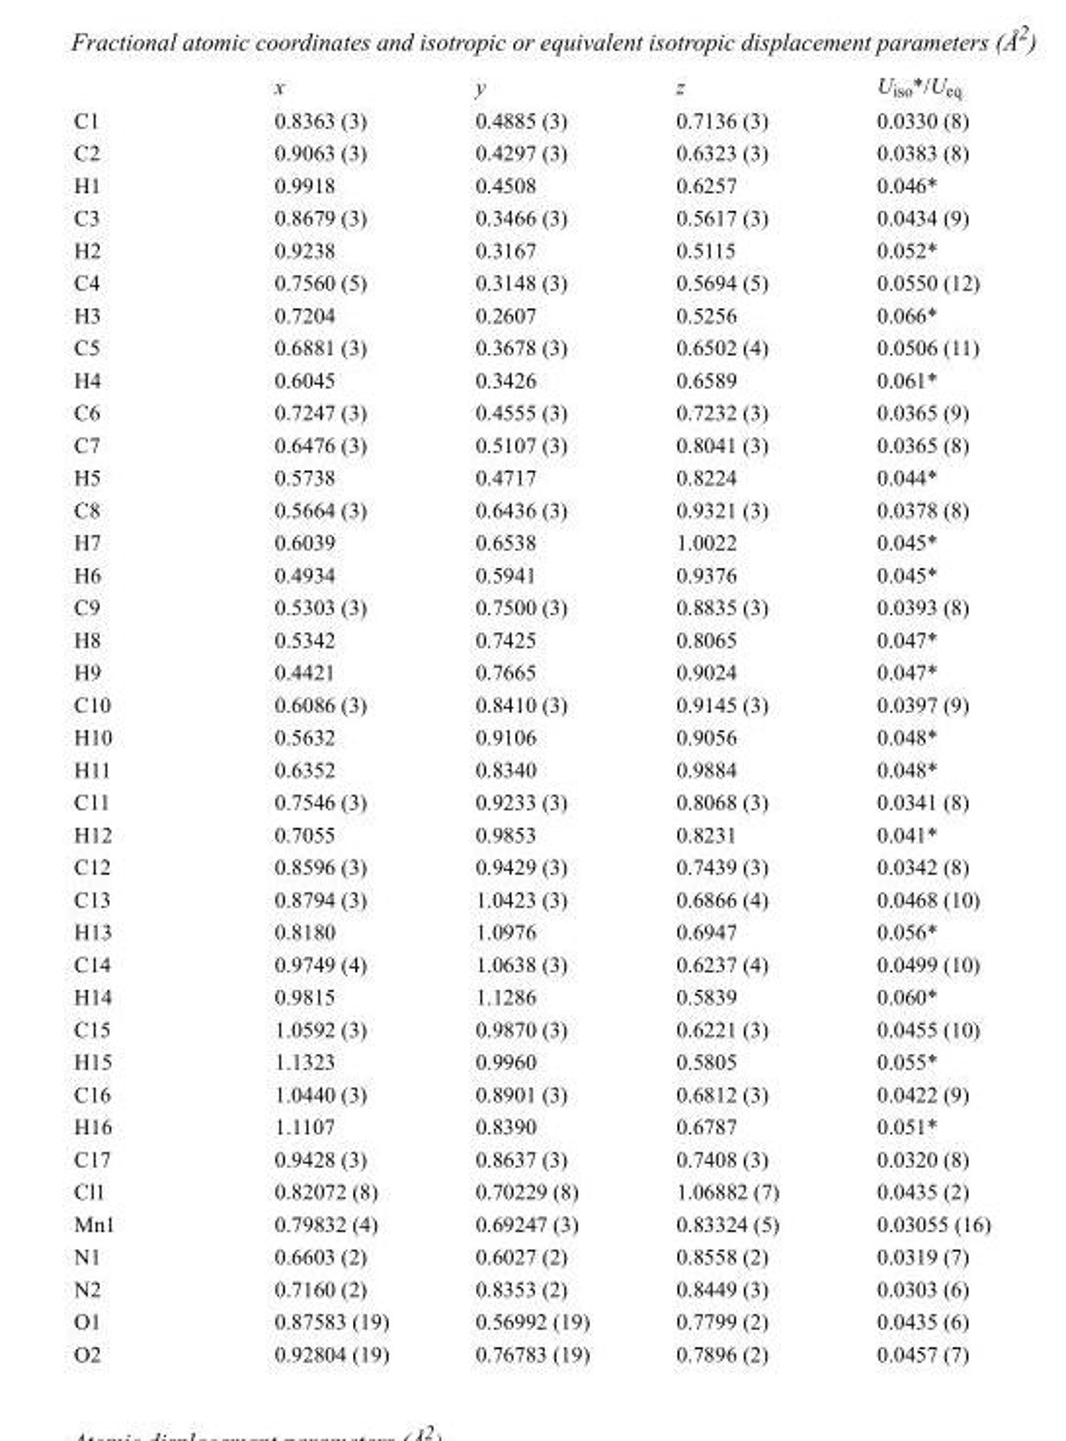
<table><thead><tr><td></td><td>x</td><td>y</td><td>z</td><td>U<sub>iso</sub>*/U<sub>eq</sub></td></tr></thead><tbody><tr><td>C1</td><td>0.8363 (3)</td><td>0.4885 (3)</td><td>0.7136 (3)</td><td>0.0330 (8)</td></tr><tr><td>C2</td><td>0.9063 (3)</td><td>0.4297 (3)</td><td>0.6323 (3)</td><td>0.0383 (8)</td></tr><tr><td>H1</td><td>0.9918</td><td>0.4508</td><td>0.6257</td><td>0.046*</td></tr><tr><td>C3</td><td>0.8679 (3)</td><td>0.3466 (3)</td><td>0.5617 (3)</td><td>0.0434 (9)</td></tr><tr><td>H2</td><td>0.9238</td><td>0.3167</td><td>0.5115</td><td>0.052*</td></tr><tr><td>C4</td><td>0.7560 (5)</td><td>0.3148 (3)</td><td>0.5694 (5)</td><td>0.0550 (12)</td></tr><tr><td>H3</td><td>0.7204</td><td>0.2607</td><td>0.5256</td><td>0.066*</td></tr><tr><td>C5</td><td>0.6881 (3)</td><td>0.3678 (3)</td><td>0.6502 (4)</td><td>0.0506 (11)</td></tr><tr><td>H4</td><td>0.6045</td><td>0.3426</td><td>0.6589</td><td>0.061*</td></tr><tr><td>C6</td><td>0.7247 (3)</td><td>0.4555 (3)</td><td>0.7232 (3)</td><td>0.0365 (9)</td></tr><tr><td>C7</td><td>0.6476 (3)</td><td>0.5107 (3)</td><td>0.8041 (3)</td><td>0.0365 (8)</td></tr><tr><td>H5</td><td>0.5738</td><td>0.4717</td><td>0.8224</td><td>0.044*</td></tr><tr><td>C8</td><td>0.5664 (3)</td><td>0.6436 (3)</td><td>0.9321 (3)</td><td>0.0378 (8)</td></tr><tr><td>H7</td><td>0.6039</td><td>0.6538</td><td>1.0022</td><td>0.045*</td></tr><tr><td>H6</td><td>0.4934</td><td>0.5941</td><td>0.9376</td><td>0.045*</td></tr><tr><td>C9</td><td>0.5303 (3)</td><td>0.7500 (3)</td><td>0.8835 (3)</td><td>0.0393 (8)</td></tr><tr><td>H8</td><td>0.5342</td><td>0.7425</td><td>0.8065</td><td>0.047*</td></tr><tr><td>H9</td><td>0.4421</td><td>0.7665</td><td>0.9024</td><td>0.047*</td></tr><tr><td>C10</td><td>0.6086 (3)</td><td>0.8410 (3)</td><td>0.9145 (3)</td><td>0.0397 (9)</td></tr><tr><td>H10</td><td>0.5632</td><td>0.9106</td><td>0.9056</td><td>0.048*</td></tr><tr><td>H11</td><td>0.6352</td><td>0.8340</td><td>0.9884</td><td>0.048*</td></tr><tr><td>C11</td><td>0.7546 (3)</td><td>0.9233 (3)</td><td>0.8068 (3)</td><td>0.0341 (8)</td></tr><tr><td>H12</td><td>0.7055</td><td>0.9853</td><td>0.8231</td><td>0.041*</td></tr><tr><td>C12</td><td>0.8596 (3)</td><td>0.9429 (3)</td><td>0.7439 (3)</td><td>0.0342 (8)</td></tr><tr><td>C13</td><td>0.8794 (3)</td><td>1.0423 (3)</td><td>0.6866 (4)</td><td>0.0468 (10)</td></tr><tr><td>H13</td><td>0.8180</td><td>1.0976</td><td>0.6947</td><td>0.056*</td></tr><tr><td>C14</td><td>0.9749 (4)</td><td>1.0638 (3)</td><td>0.6237 (4)</td><td>0.0499 (10)</td></tr><tr><td>H14</td><td>0.9815</td><td>1.1286</td><td>0.5839</td><td>0.060*</td></tr><tr><td>C15</td><td>1.0592 (3)</td><td>0.9870 (3)</td><td>0.6221 (3)</td><td>0.0455 (10)</td></tr><tr><td>H15</td><td>1.1323</td><td>0.9960</td><td>0.5805</td><td>0.055*</td></tr><tr><td>C16</td><td>1.0440 (3)</td><td>0.8901 (3)</td><td>0.6812 (3)</td><td>0.0422 (9)</td></tr><tr><td>H16</td><td>1.1107</td><td>0.8390</td><td>0.6787</td><td>0.051*</td></tr><tr><td>C17</td><td>0.9428 (3)</td><td>0.8637 (3)</td><td>0.7408 (3)</td><td>0.0320 (8)</td></tr><tr><td>Cl1</td><td>0.82072 (8)</td><td>0.70229 (8)</td><td>1.06882 (7)</td><td>0.0435 (2)</td></tr><tr><td>Mn1</td><td>0.79832 (4)</td><td>0.69247 (3)</td><td>0.83324 (5)</td><td>0.03055 (16)</td></tr><tr><td>N1</td><td>0.6603 (2)</td><td>0.6027 (2)</td><td>0.8558 (2)</td><td>0.0319 (7)</td></tr><tr><td>N2</td><td>0.7160 (2)</td><td>0.8353 (2)</td><td>0.8449 (3)</td><td>0.0303 (6)</td></tr><tr><td>O1</td><td>0.87583 (19)</td><td>0.56992 (19)</td><td>0.7799 (2)</td><td>0.0435 (6)</td></tr><tr><td>O2</td><td>0.92804 (19)</td><td>0.76783 (19)</td><td>0.7896 (2)</td><td>0.0457 (7)</td></tr></tbody></table>